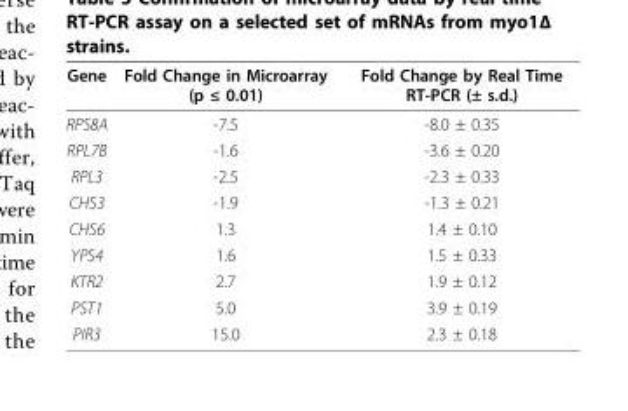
<table><thead><tr><td>Gene</td><td>Fold Change in Microarray (p ≤ 0.01)</td><td>Fold Change by Real Time RT-PCR (± s.d.)</td></tr></thead><tbody><tr><td>RPS8A</td><td>-7.5</td><td>-8.0 ± 0.35</td></tr><tr><td>RPL7B</td><td>-1.6</td><td>-3.6 ± 0.20</td></tr><tr><td>RPL3</td><td>-2.5</td><td>-2.3 ± 0.33</td></tr><tr><td>CHS3</td><td>-1.9</td><td>-1.3 ± 0.21</td></tr><tr><td>CHS6</td><td>1.3</td><td>1.4 ± 0.10</td></tr><tr><td>YPS4</td><td>1.6</td><td>1.5 ± 0.33</td></tr><tr><td>KTR2</td><td>2.7</td><td>1.9 ± 0.12</td></tr><tr><td>PST1</td><td>5.0</td><td>3.9 ± 0.19</td></tr><tr><td>PIR3</td><td>15.0</td><td>2.3 ± 0.18</td></tr></tbody></table>